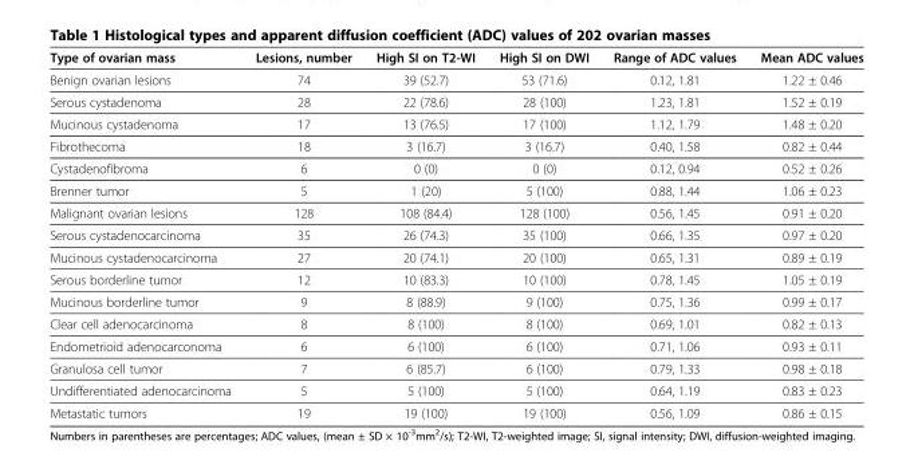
<table><thead><tr><td>Type of ovarian mass</td><td>Lesions, number</td><td>High SI on T2-WI</td><td>High SI on DWI</td><td>Range of ADC values</td><td>Mean ADC values</td></tr></thead><tbody><tr><td>Benign ovarian lesions</td><td>74</td><td>39 (52.7)</td><td>53 (71.6)</td><td>0.12, 1.81</td><td>1.22 ± 0.46</td></tr><tr><td>Serous cystadenoma</td><td>28</td><td>22 (78.6)</td><td>28 (100)</td><td>1.23, 1.81</td><td>1.52 ± 0.19</td></tr><tr><td>Mucinous cystadenoma</td><td>17</td><td>13 (76.5)</td><td>17 (100)</td><td>1.12, 1.79</td><td>1.48 ± 0.20</td></tr><tr><td>Fibrothecoma</td><td>18</td><td>3 (16.7)</td><td>3 (16.7)</td><td>0.40, 1.58</td><td>0.82 ± 0.44</td></tr><tr><td>Cystadenofibroma</td><td>6</td><td>0 (0)</td><td>0 (0)</td><td>0.12, 0.94</td><td>0.52 ± 0.26</td></tr><tr><td>Brenner tumor</td><td>5</td><td>1 (20)</td><td>5 (100)</td><td>0.88, 1.44</td><td>1.06 ± 0.23</td></tr><tr><td>Malignant ovarian lesions</td><td>128</td><td>108 (84.4)</td><td>128 (100)</td><td>0.56, 1.45</td><td>0.91 ± 0.20</td></tr><tr><td>Serous cystadenocarcinoma</td><td>35</td><td>26 (74.3)</td><td>35 (100)</td><td>0.66, 1.35</td><td>0.97 ± 0.20</td></tr><tr><td>Mucinous cystadenocarcinoma</td><td>27</td><td>20 (74.1)</td><td>20 (100)</td><td>0.65, 1.31</td><td>0.89 ± 0.19</td></tr><tr><td>Serous borderline tumor</td><td>12</td><td>10 (83.3)</td><td>10 (100)</td><td>0.78, 1.45</td><td>1.05 ± 0.19</td></tr><tr><td>Mucinous borderline tumor</td><td>9</td><td>8 (88.9)</td><td>9 (100)</td><td>0.75, 1.36</td><td>0.99 ± 0.17</td></tr><tr><td>Clear cell adenocarcinoma</td><td>8</td><td>8 (100)</td><td>8 (100)</td><td>0.69, 1.01</td><td>0.82 ± 0.13</td></tr><tr><td>Endometrioid adenocarconoma</td><td>6</td><td>6 (100)</td><td>6 (100)</td><td>0.71, 1.06</td><td>0.93 ± 0.11</td></tr><tr><td>Granulosa cell tumor</td><td>7</td><td>6 (85.7)</td><td>6 (100)</td><td>0.79, 1.33</td><td>0.98 ± 0.18</td></tr><tr><td>Undifferentiated adenocarcinoma</td><td>5</td><td>5 (100)</td><td>5 (100)</td><td>0.64, 1.19</td><td>0.83 ± 0.23</td></tr><tr><td>Metastatic tumors</td><td>19</td><td>19 (100)</td><td>19 (100)</td><td>0.56, 1.09</td><td>0.86 ± 0.15</td></tr></tbody></table>